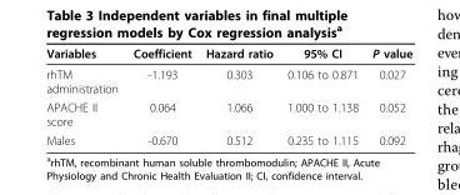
<table><thead><tr><td>Variables</td><td>Coefficient</td><td>Hazard ratio</td><td>95% CI</td><td>P value</td></tr></thead><tbody><tr><td>rhTM administration</td><td>-1.193</td><td>0.303</td><td>0.106 to 0.871</td><td>0.027</td></tr><tr><td>APACHE II score</td><td>0.064</td><td>1.066</td><td>1.000 to 1.138</td><td>0.052</td></tr><tr><td>Males</td><td>-0.670</td><td>0.512</td><td>0.235 to 1.115</td><td>0.092</td></tr></tbody></table>